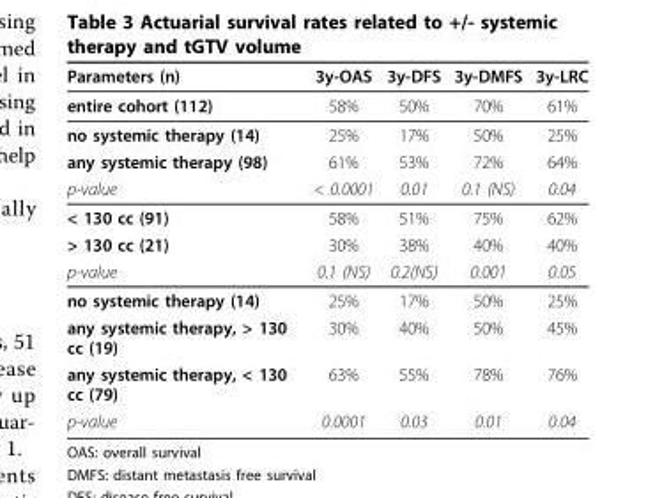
<table><thead><tr><td>Parameters (n)</td><td>3y-OAS</td><td>3y-DFS</td><td>3y-DMFS</td><td>3y-LRC</td></tr></thead><tbody><tr><td>entire cohort (112)</td><td>58%</td><td>50%</td><td>70%</td><td>61%</td></tr><tr><td>no systemic therapy (14)</td><td>25%</td><td>17%</td><td>50%</td><td>25%</td></tr><tr><td>any systemic therapy (98)</td><td>61%</td><td>53%</td><td>72%</td><td>64%</td></tr><tr><td>p-value</td><td>&lt; 0.0001</td><td>0.01</td><td>0.1 (NS)</td><td>0.04</td></tr><tr><td>&lt; 130 cc (91)</td><td>58%</td><td>51%</td><td>75%</td><td>62%</td></tr><tr><td>&gt; 130 cc (21)</td><td>30%</td><td>38%</td><td>40%</td><td>40%</td></tr><tr><td>p-value</td><td>0.1 (NS)</td><td>0.2(NS)</td><td>0.001</td><td>0.05</td></tr><tr><td>no systemic therapy (14)</td><td>25%</td><td>17%</td><td>50%</td><td>25%</td></tr><tr><td>any systemic therapy, &gt; 130 cc (19)</td><td>30%</td><td>40%</td><td>50%</td><td>45%</td></tr><tr><td>any systemic therapy, &lt; 130 cc (79)</td><td>63%</td><td>55%</td><td>78%</td><td>76%</td></tr><tr><td>p-value</td><td>0.0001</td><td>0.03</td><td>0.01</td><td>0.04</td></tr></tbody></table>